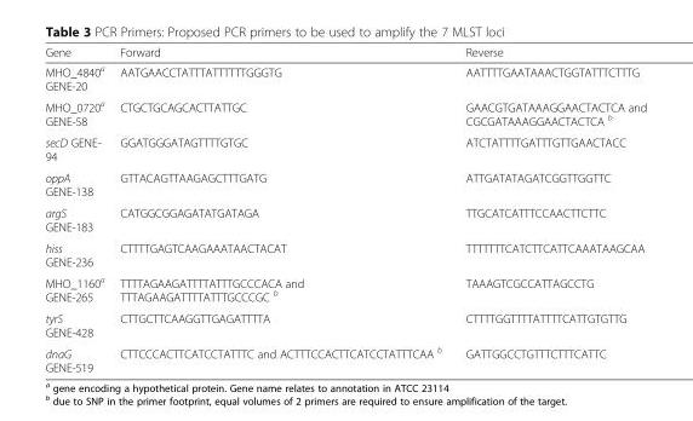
<table><thead><tr><td>Gene</td><td>Forward</td><td>Reverse</td></tr></thead><tbody><tr><td>MHO_4840<sup>a</sup> GENE-20</td><td>AATGAACCTATTTATTTTTTGGGTG</td><td>AATTTTGAATAAACTGGTATTTCTTTG</td></tr><tr><td>MHO_0720<sup>a</sup> GENE-58</td><td>CTGCTGCAGCACTTATTGC</td><td>GAACGTGATAAAGGAACTACTCA and CGCGATAAAGGAACTACTCA <sup>b</sup></td></tr><tr><td>secD GENE- 94</td><td>GGATGGGATAGTTTTGTGC</td><td>ATCTATTTTGATTTGTTGAACTACC</td></tr><tr><td>oppA GENE-138</td><td>GTTACAGTTAAGAGCTTTGATG</td><td>ATTGATATAGATCGGTTGGTTC</td></tr><tr><td>argS GENE-183</td><td>CATGGCGGAGATATGATAGA</td><td>TTGCATCATTTCCAACTTCTTC</td></tr><tr><td>hiss GENE-236</td><td>CTTTTGAGTCAAGAAATAACTACAT</td><td>TTTTTTTCATCTTCATTCAAATAAGCAA</td></tr><tr><td>MHO_1160<sup>a</sup> GENE-265</td><td>TTTTAGAAGATTTTATTTGCCCACA and TTTAGAAGATTTTATTTGCCCGC <sup>b</sup></td><td>TAAAGTCGCCATTAGCCTG</td></tr><tr><td>tyrS GENE-428</td><td>CTTGCTTCAAGGTTGAGATTTTA</td><td>CTTTTGGTTTTATTTTCATTGTGTTG</td></tr><tr><td>dnaG GENE-519</td><td>CTTCCCACTTCATCCTATTTC and ACTTTCCACTTCATCCTATTTCAA <sup>b</sup></td><td>GATTGGCCTGTTTCTTTCATTC</td></tr></tbody></table>